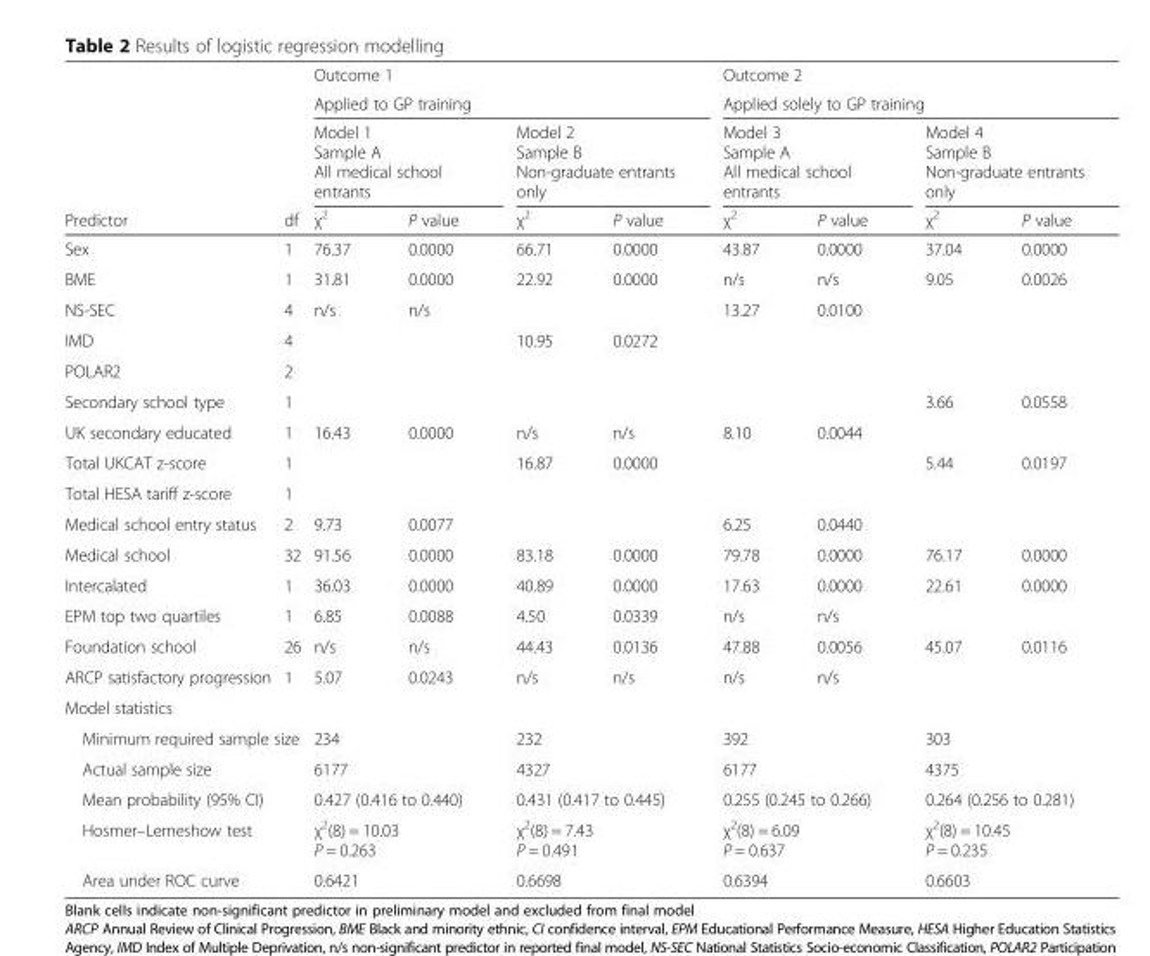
<table><thead><tr><td rowspan="4">Predictor</td><td rowspan="4">df</td><td rowspan="2" colspan="4">Outcome 1 Applied to GP training</td><td rowspan="2" colspan="4">Outcome 2 Applied solely to GP training</td></tr><tr></tr><tr><td colspan="2">Model 1 Sample A All medical school entrants</td><td colspan="2">Model 2 Sample B Non-graduate entrants only</td><td colspan="2">Model 3 Sample A All medical school entrants</td><td colspan="2">Model 4 Sample B Non-graduate entrants only</td></tr><tr><td>χ<sup>2</sup></td><td>P value</td><td>χ<sup>2</sup></td><td>P value</td><td>χ<sup>2</sup></td><td>P value</td><td>χ<sup>2</sup></td><td>P value</td></tr></thead><tbody><tr><td>Sex</td><td>1</td><td>76.37</td><td>0.0000</td><td>66.71</td><td>0.0000</td><td>43.87</td><td>0.0000</td><td>37.04</td><td>0.0000</td></tr><tr><td>BME</td><td>1</td><td>31.81</td><td>0.0000</td><td>22.92</td><td>0.0000</td><td>n/s</td><td>n/s</td><td>9.05</td><td>0.0026</td></tr><tr><td>NS-SEC</td><td>4</td><td>n/s</td><td>n/s</td><td></td><td></td><td>13.27</td><td>0.0100</td><td></td><td></td></tr><tr><td>IMD</td><td>4</td><td></td><td></td><td>10.95</td><td>0.0272</td><td></td><td></td><td></td><td></td></tr><tr><td>POLAR2</td><td>2</td><td></td><td></td><td></td><td></td><td></td><td></td><td></td><td></td></tr><tr><td>Secondary school type</td><td>1</td><td></td><td></td><td></td><td></td><td></td><td></td><td>3.66</td><td>0.0558</td></tr><tr><td>UK secondary educated</td><td>1</td><td>16.43</td><td>0.0000</td><td>n/s</td><td>n/s</td><td>8.10</td><td>0.0044</td><td></td><td></td></tr><tr><td>Total UKCAT z-score</td><td>1</td><td></td><td></td><td>16.87</td><td>0.0000</td><td></td><td></td><td>5.44</td><td>0.0197</td></tr><tr><td>Total HESA tariff z-score</td><td>1</td><td></td><td></td><td></td><td></td><td></td><td></td><td></td><td></td></tr><tr><td>Medical school entry status</td><td>2</td><td>9.73</td><td>0.0077</td><td></td><td></td><td>6.25</td><td>0.0440</td><td></td><td></td></tr><tr><td>Medical school</td><td>32</td><td>91.56</td><td>0.0000</td><td>83.18</td><td>0.0000</td><td>79.78</td><td>0.0000</td><td>76.17</td><td>0.0000</td></tr><tr><td>Intercalated</td><td>1</td><td>36.03</td><td>0.0000</td><td>40.89</td><td>0.0000</td><td>17.63</td><td>0.0000</td><td>22.61</td><td>0.0000</td></tr><tr><td>EPM top two quartiles</td><td>1</td><td>6.85</td><td>0.0088</td><td>4.50</td><td>0.0339</td><td>n/s</td><td>n/s</td><td></td><td></td></tr><tr><td>Foundation school</td><td>26</td><td>n/s</td><td>n/s</td><td>44.43</td><td>0.0136</td><td>47.88</td><td>0.0056</td><td>45.07</td><td>0.0116</td></tr><tr><td>ARCP satisfactory progression</td><td>1</td><td>5.07</td><td>0.0243</td><td>n/s</td><td>n/s</td><td>n/s</td><td>n/s</td><td></td><td></td></tr><tr><td colspan="10">Model statistics</td></tr><tr><td colspan="2">Minimum required sample size</td><td colspan="2">234</td><td colspan="2">232</td><td colspan="2">392</td><td colspan="2">303</td></tr><tr><td colspan="2">Actual sample size</td><td colspan="2">6177</td><td colspan="2">4327</td><td colspan="2">6177</td><td colspan="2">4375</td></tr><tr><td colspan="2">Mean probability (95% CI)</td><td colspan="2">0.427 (0.416 to 0.440)</td><td colspan="2">0.431 (0.417 to 0.445)</td><td colspan="2">0.255 (0.245 to 0.266)</td><td colspan="2">0.264 (0.256 to 0.281)</td></tr><tr><td colspan="2">Hosmer–Lemeshow test</td><td colspan="2">χ<sup>2</sup>(8) = 10.03 P = 0.263</td><td colspan="2">χ<sup>2</sup>(8) = 7.43 P = 0.491</td><td colspan="2">χ<sup>2</sup>(8) = 6.09 P = 0.637</td><td colspan="2">χ<sup>2</sup>(8) = 10.45 P = 0.235</td></tr><tr><td colspan="2">Area under ROC curve</td><td colspan="2">0.6421</td><td colspan="2">0.6698</td><td colspan="2">0.6394</td><td colspan="2">0.6603</td></tr></tbody></table>